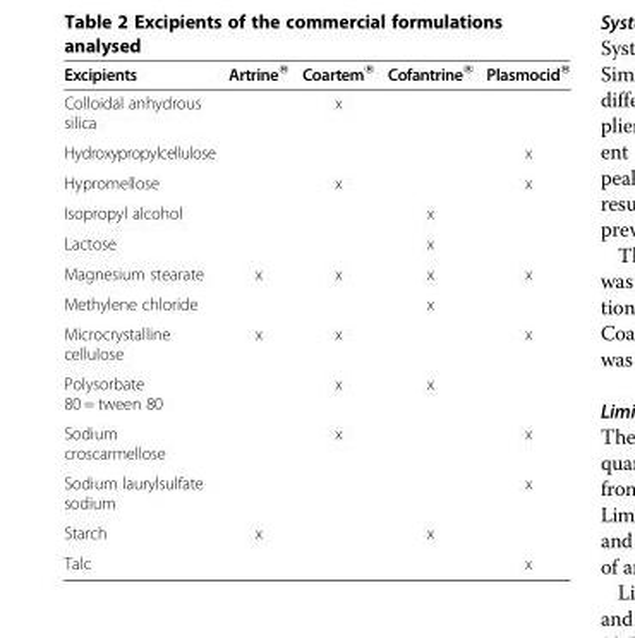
<table><thead><tr><td>Excipients</td><td>Artrine®</td><td>Coartem®</td><td>Cofantrine®</td><td>Plasmocid®</td></tr></thead><tbody><tr><td>Colloidal anhydrous silica</td><td></td><td>x</td><td></td><td></td></tr><tr><td>Hydroxypropylcellulose</td><td></td><td></td><td></td><td>x</td></tr><tr><td>Hypromellose</td><td></td><td>x</td><td></td><td>x</td></tr><tr><td>Isopropyl alcohol</td><td></td><td></td><td>x</td><td></td></tr><tr><td>Lactose</td><td></td><td></td><td>x</td><td></td></tr><tr><td>Magnesium stearate</td><td>x</td><td>x</td><td>x</td><td>x</td></tr><tr><td>Methylene chloride</td><td></td><td></td><td>x</td><td></td></tr><tr><td>Microcrystalline cellulose</td><td>x</td><td>x</td><td></td><td>x</td></tr><tr><td>Polysorbate 80 = tween 80</td><td></td><td>x</td><td>x</td><td></td></tr><tr><td>Sodium croscarmellose</td><td></td><td>x</td><td></td><td>x</td></tr><tr><td>Sodium laurylsulfate sodium</td><td></td><td></td><td></td><td>x</td></tr><tr><td>Starch</td><td>x</td><td></td><td>x</td><td></td></tr><tr><td>Talc</td><td></td><td></td><td></td><td>x</td></tr></tbody></table>